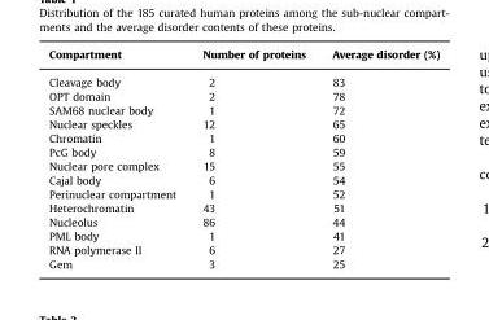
<table><thead><tr><td>Compartment</td><td>Number of proteins</td><td>Average disorder (%)</td></tr></thead><tbody><tr><td>Cleavage body</td><td>2</td><td>83</td></tr><tr><td>OPT domain</td><td>2</td><td>78</td></tr><tr><td>SAM68 nuclear body</td><td>1</td><td>72</td></tr><tr><td>Nuclear speckles</td><td>12</td><td>65</td></tr><tr><td>Chromatin</td><td>1</td><td>60</td></tr><tr><td>PcG body</td><td>8</td><td>59</td></tr><tr><td>Nuclear pore complex</td><td>15</td><td>55</td></tr><tr><td>Cajal body</td><td>6</td><td>54</td></tr><tr><td>Perinuclear compartment</td><td>1</td><td>52</td></tr><tr><td>Heterochromatin</td><td>43</td><td>51</td></tr><tr><td>Nucleolus</td><td>86</td><td>44</td></tr><tr><td>PML body</td><td>1</td><td>41</td></tr><tr><td>RNA polymerase II</td><td>6</td><td>27</td></tr><tr><td>Gem</td><td>3</td><td>25</td></tr></tbody></table>